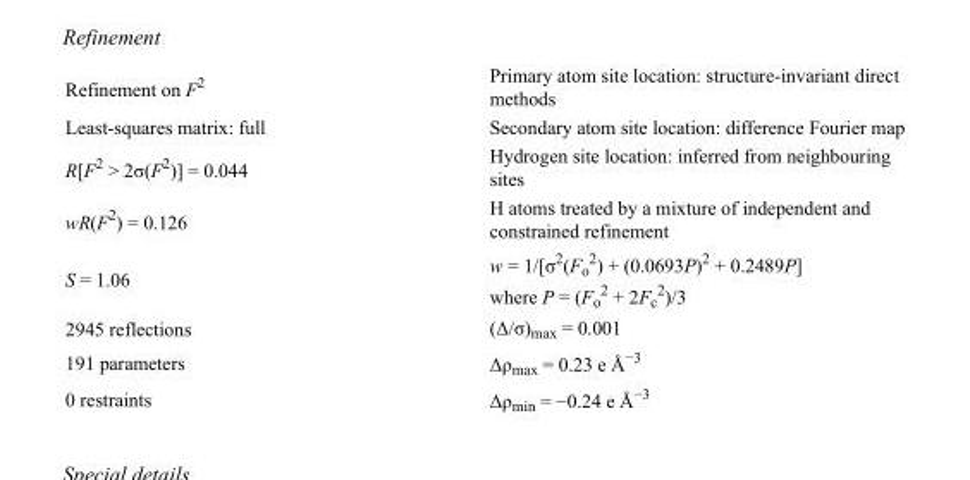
<table><tbody><tr><td>Refinement on F<sup>2</sup></td><td>Primary atom site location: structure-invariant direct methods</td></tr><tr><td>Least-squares matrix: full</td><td>Secondary atom site location: difference Fourier map</td></tr><tr><td>R[F<sup>2</sup> &gt; 2σ(F<sup>2</sup>)] = 0.044</td><td>Hydrogen site location: inferred from neighbouring sites</td></tr><tr><td>wR(F<sup>2</sup>) = 0.126</td><td>H atoms treated by a mixture of independent and constrained refinement</td></tr><tr><td>S = 1.06</td><td>w = 1/[σ<sup>2</sup>(F<sub>o</sub> <sup>2</sup>) + (0.0693P)<sup>2</sup> + 0.2489P] where P = (F<sub>o</sub> <sup>2</sup> + 2F<sub>c</sub> <sup>2</sup>)/3</td></tr><tr><td>2945 reflections</td><td>(Δ/σ)<sub>max</sub> = 0.001</td></tr><tr><td>191 parameters</td><td>Δρ<sub>max</sub> = 0.23 e Å<sup>−3</sup></td></tr><tr><td>0 restraints</td><td>Δρ<sub>min</sub> = −0.24 e Å<sup>−3</sup></td></tr></tbody></table>